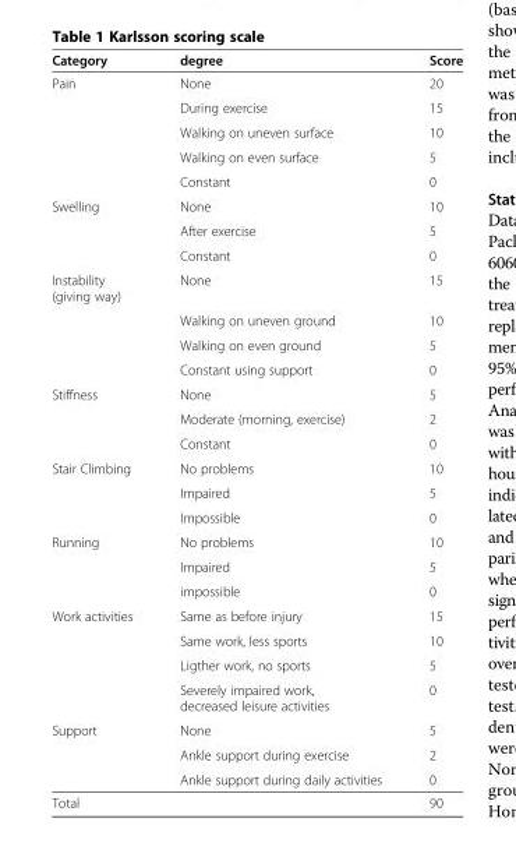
<table><thead><tr><td>Category</td><td>degree</td><td>Score</td></tr></thead><tbody><tr><td rowspan="5">Pain</td><td>None</td><td>20</td></tr><tr><td>During exercise</td><td>15</td></tr><tr><td>Walking on uneven surface</td><td>10</td></tr><tr><td>Walking on even surface</td><td>5</td></tr><tr><td>Constant</td><td>0</td></tr><tr><td rowspan="3">Swelling</td><td>None</td><td>10</td></tr><tr><td>After exercise</td><td>5</td></tr><tr><td>Constant</td><td>0</td></tr><tr><td rowspan="4">Instability (giving way)</td><td>None</td><td>15</td></tr><tr><td>Walking on uneven ground</td><td>10</td></tr><tr><td>Walking on even ground</td><td>5</td></tr><tr><td>Constant using support</td><td>0</td></tr><tr><td rowspan="3">Stiffness</td><td>None</td><td>5</td></tr><tr><td>Moderate (morning, exercise)</td><td>2</td></tr><tr><td>Constant</td><td>0</td></tr><tr><td rowspan="3">Stair Climbing</td><td>No problems</td><td>10</td></tr><tr><td>Impaired</td><td>5</td></tr><tr><td>Impossible</td><td>0</td></tr><tr><td rowspan="3">Running</td><td>No problems</td><td>10</td></tr><tr><td>Impaired</td><td>5</td></tr><tr><td>impossible</td><td>0</td></tr><tr><td rowspan="4">Work activities</td><td>Same as before injury</td><td>15</td></tr><tr><td>Same work, less sports</td><td>10</td></tr><tr><td>Ligther work, no sports</td><td>5</td></tr><tr><td>Severely impaired work, decreased leisure activities</td><td>0</td></tr><tr><td rowspan="3">Support</td><td>None</td><td>5</td></tr><tr><td>Ankle support during exercise</td><td>2</td></tr><tr><td>Ankle support during daily activities</td><td>0</td></tr><tr><td colspan="2">Total</td><td>90</td></tr></tbody></table>